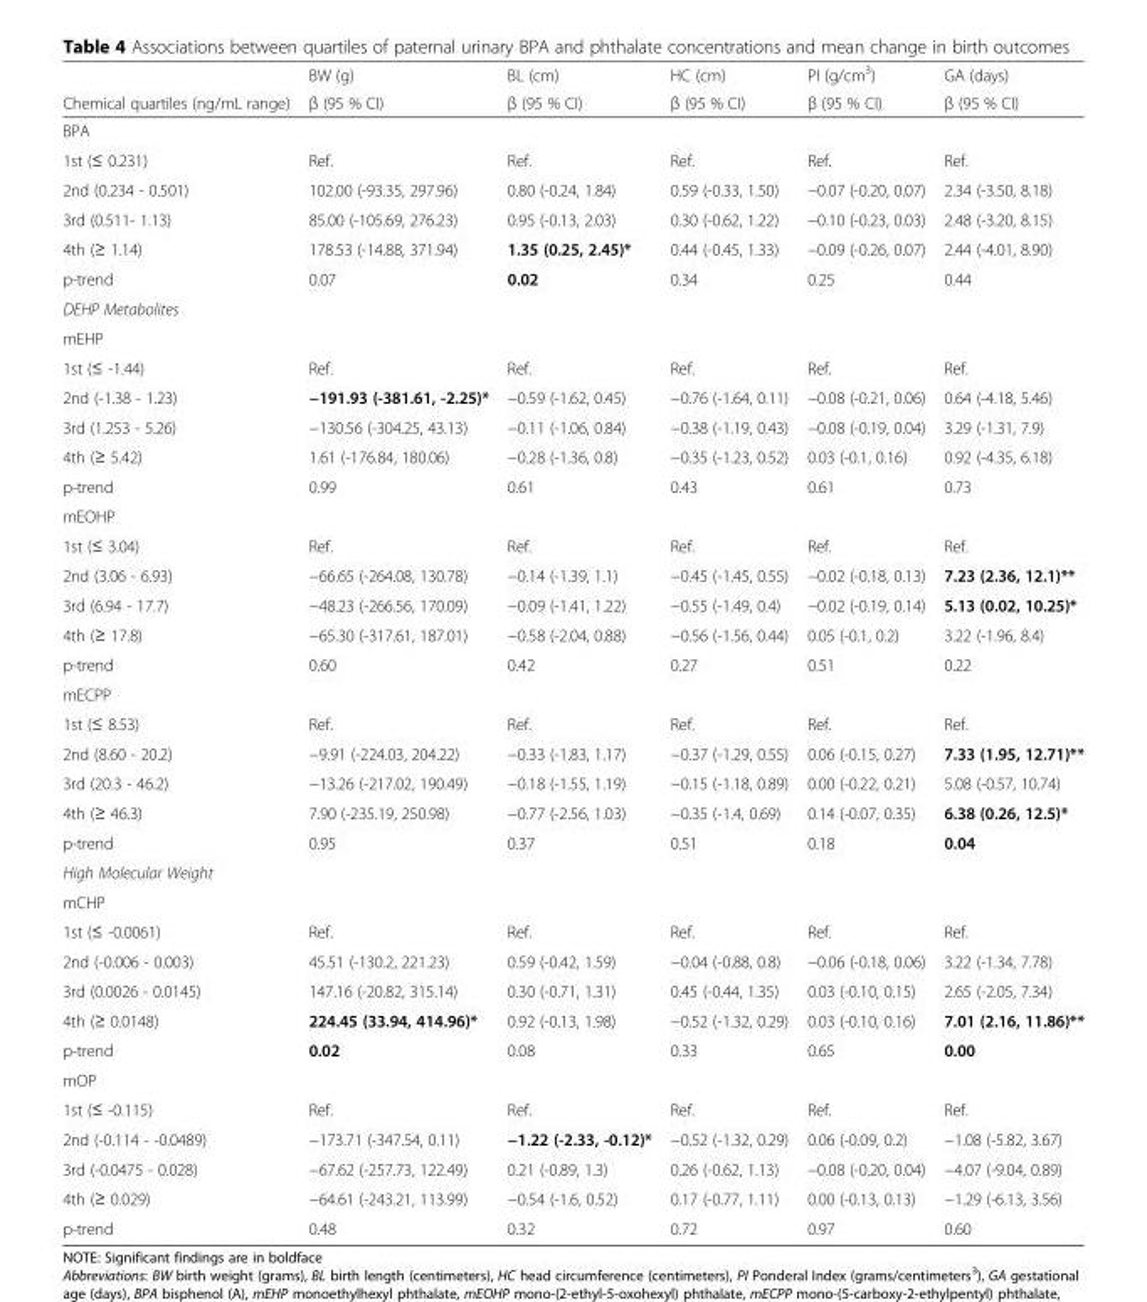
<table><thead><tr><td rowspan="2">Chemical quartiles (ng/mL range)</td><td rowspan="2">BW (g) β (95 % CI)</td><td rowspan="2">BL (cm) β (95 % CI)</td><td rowspan="2">HC (cm) β (95 % CI)</td><td rowspan="2">PI (g/cm<sup>3</sup>) β (95 % CI)</td><td rowspan="2">GA (days) β (95 % CI)</td></tr><tr></tr></thead><tbody><tr><td colspan="6">BPA</td></tr><tr><td>1st (≤ 0.231)</td><td>Ref.</td><td>Ref.</td><td>Ref.</td><td>Ref.</td><td>Ref.</td></tr><tr><td>2nd (0.234 - 0.501)</td><td>102.00 (-93.35, 297.96)</td><td>0.80 (-0.24, 1.84)</td><td>0.59 (-0.33, 1.50)</td><td>−0.07 (-0.20, 0.07)</td><td>2.34 (-3.50, 8.18)</td></tr><tr><td>3rd (0.511- 1.13)</td><td>85.00 (-105.69, 276.23)</td><td>0.95 (-0.13, 2.03)</td><td>0.30 (-0.62, 1.22)</td><td>−0.10 (-0.23, 0.03)</td><td>2.48 (-3.20, 8.15)</td></tr><tr><td>4th (≥ 1.14)</td><td>178.53 (-14.88, 371.94)</td><td>1.35 (0.25, 2.45)*</td><td>0.44 (-0.45, 1.33)</td><td>−0.09 (-0.26, 0.07)</td><td>2.44 (-4.01, 8.90)</td></tr><tr><td>p-trend</td><td>0.07</td><td>0.02</td><td>0.34</td><td>0.25</td><td>0.44</td></tr><tr><td colspan="6">DEHP Metabolites</td></tr><tr><td colspan="6">mEHP</td></tr><tr><td>1st (≤ -1.44)</td><td>Ref.</td><td>Ref.</td><td>Ref.</td><td>Ref.</td><td>Ref.</td></tr><tr><td>2nd (-1.38 - 1.23)</td><td>−191.93 (-381.61, -2.25)*</td><td>−0.59 (-1.62, 0.45)</td><td>−0.76 (-1.64, 0.11)</td><td>−0.08 (-0.21, 0.06)</td><td>0.64 (-4.18, 5.46)</td></tr><tr><td>3rd (1.253 - 5.26)</td><td>−130.56 (-304.25, 43.13)</td><td>−0.11 (-1.06, 0.84)</td><td>−0.38 (-1.19, 0.43)</td><td>−0.08 (-0.19, 0.04)</td><td>3.29 (-1.31, 7.9)</td></tr><tr><td>4th (≥ 5.42)</td><td>1.61 (-176.84, 180.06)</td><td>−0.28 (-1.36, 0.8)</td><td>−0.35 (-1.23, 0.52)</td><td>0.03 (-0.1, 0.16)</td><td>0.92 (-4.35, 6.18)</td></tr><tr><td>p-trend</td><td>0.99</td><td>0.61</td><td>0.43</td><td>0.61</td><td>0.73</td></tr><tr><td colspan="6">mEOHP</td></tr><tr><td>1st (≤ 3.04)</td><td>Ref.</td><td>Ref.</td><td>Ref.</td><td>Ref.</td><td>Ref.</td></tr><tr><td>2nd (3.06 - 6.93)</td><td>−66.65 (-264.08, 130.78)</td><td>−0.14 (-1.39, 1.1)</td><td>−0.45 (-1.45, 0.55)</td><td>−0.02 (-0.18, 0.13)</td><td>7.23 (2.36, 12.1)**</td></tr><tr><td>3rd (6.94 - 17.7)</td><td>−48.23 (-266.56, 170.09)</td><td>−0.09 (-1.41, 1.22)</td><td>−0.55 (-1.49, 0.4)</td><td>−0.02 (-0.19, 0.14)</td><td>5.13 (0.02, 10.25)*</td></tr><tr><td>4th (≥ 17.8)</td><td>−65.30 (-317.61, 187.01)</td><td>−0.58 (-2.04, 0.88)</td><td>−0.56 (-1.56, 0.44)</td><td>0.05 (-0.1, 0.2)</td><td>3.22 (-1.96, 8.4)</td></tr><tr><td>p-trend</td><td>0.60</td><td>0.42</td><td>0.27</td><td>0.51</td><td>0.22</td></tr><tr><td colspan="6">mECPP</td></tr><tr><td>1st (≤ 8.53)</td><td>Ref.</td><td>Ref.</td><td>Ref.</td><td>Ref.</td><td>Ref.</td></tr><tr><td>2nd (8.60 - 20.2)</td><td>−9.91 (-224.03, 204.22)</td><td>−0.33 (-1.83, 1.17)</td><td>−0.37 (-1.29, 0.55)</td><td>0.06 (-0.15, 0.27)</td><td>7.33 (1.95, 12.71)**</td></tr><tr><td>3rd (20.3 - 46.2)</td><td>−13.26 (-217.02, 190.49)</td><td>−0.18 (-1.55, 1.19)</td><td>−0.15 (-1.18, 0.89)</td><td>0.00 (-0.22, 0.21)</td><td>5.08 (-0.57, 10.74)</td></tr><tr><td>4th (≥ 46.3)</td><td>7.90 (-235.19, 250.98)</td><td>−0.77 (-2.56, 1.03)</td><td>−0.35 (-1.4, 0.69)</td><td>0.14 (-0.07, 0.35)</td><td>6.38 (0.26, 12.5)*</td></tr><tr><td>p-trend</td><td>0.95</td><td>0.37</td><td>0.51</td><td>0.18</td><td>0.04</td></tr><tr><td colspan="6">High Molecular Weight</td></tr><tr><td colspan="6">mCHP</td></tr><tr><td>1st (≤ -0.0061)</td><td>Ref.</td><td>Ref.</td><td>Ref.</td><td>Ref.</td><td>Ref.</td></tr><tr><td>2nd (-0.006 - 0.003)</td><td>45.51 (-130.2, 221.23)</td><td>0.59 (-0.42, 1.59)</td><td>−0.04 (-0.88, 0.8)</td><td>−0.06 (-0.18, 0.06)</td><td>3.22 (-1.34, 7.78)</td></tr><tr><td>3rd (0.0026 - 0.0145)</td><td>147.16 (-20.82, 315.14)</td><td>0.30 (-0.71, 1.31)</td><td>0.45 (-0.44, 1.35)</td><td>0.03 (-0.10, 0.15)</td><td>2.65 (-2.05, 7.34)</td></tr><tr><td>4th (≥ 0.0148)</td><td>224.45 (33.94, 414.96)*</td><td>0.92 (-0.13, 1.98)</td><td>−0.52 (-1.32, 0.29)</td><td>0.03 (-0.10, 0.16)</td><td>7.01 (2.16, 11.86)**</td></tr><tr><td>p-trend</td><td>0.02</td><td>0.08</td><td>0.33</td><td>0.65</td><td>0.00</td></tr><tr><td colspan="6">mOP</td></tr><tr><td>1st (≤ -0.115)</td><td>Ref.</td><td>Ref.</td><td>Ref.</td><td>Ref.</td><td>Ref.</td></tr><tr><td>2nd (-0.114 - -0.0489)</td><td>−173.71 (-347.54, 0.11)</td><td>−1.22 (-2.33, -0.12)*</td><td>−0.52 (-1.32, 0.29)</td><td>0.06 (-0.09, 0.2)</td><td>−1.08 (-5.82, 3.67)</td></tr><tr><td>3rd (-0.0475 - 0.028)</td><td>−67.62 (-257.73, 122.49)</td><td>0.21 (-0.89, 1.3)</td><td>0.26 (-0.62, 1.13)</td><td>−0.08 (-0.20, 0.04)</td><td>−4.07 (-9.04, 0.89)</td></tr><tr><td>4th (≥ 0.029)</td><td>−64.61 (-243.21, 113.99)</td><td>−0.54 (-1.6, 0.52)</td><td>0.17 (-0.77, 1.11)</td><td>0.00 (-0.13, 0.13)</td><td>−1.29 (-6.13, 3.56)</td></tr><tr><td>p-trend</td><td>0.48</td><td>0.32</td><td>0.72</td><td>0.97</td><td>0.60</td></tr></tbody></table>